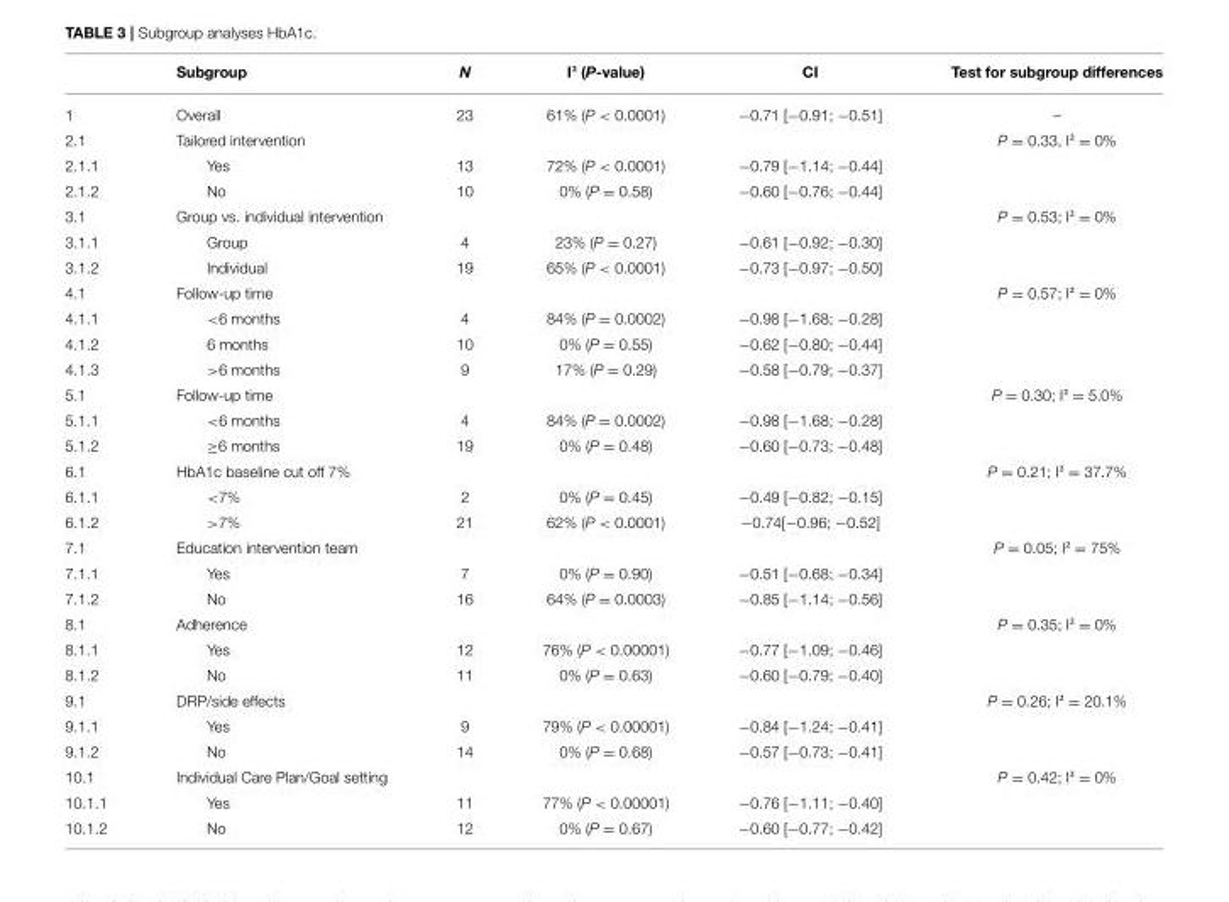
<table><thead><tr><td></td><td>Subgroup</td><td>N</td><td>I² (P-value)</td><td>CI</td><td>Test for subgroup differences</td></tr></thead><tbody><tr><td>1</td><td>Overall</td><td>23</td><td>61% (P &lt; 0.0001)</td><td>−0.71 [−0.91; −0.51]</td><td>–</td></tr><tr><td>2.1</td><td>Tailored intervention</td><td></td><td></td><td></td><td>P = 0.33, I² = 0%</td></tr><tr><td>2.1.1</td><td>Yes</td><td>13</td><td>72% (P &lt; 0.0001)</td><td>−0.79 [−1.14; −0.44]</td><td></td></tr><tr><td>2.1.2</td><td>No</td><td>10</td><td>0% (P = 0.58)</td><td>−0.60 [−0.76; −0.44]</td><td></td></tr><tr><td>3.1</td><td>Group vs. individual intervention</td><td></td><td></td><td></td><td>P = 0.53; I² = 0%</td></tr><tr><td>3.1.1</td><td>Group</td><td>4</td><td>23% (P = 0.27)</td><td>−0.61 [−0.92; −0.30]</td><td></td></tr><tr><td>3.1.2</td><td>Individual</td><td>19</td><td>65% (P &lt; 0.0001)</td><td>−0.73 [−0.97; −0.50]</td><td></td></tr><tr><td>4.1</td><td>Follow-up time</td><td></td><td></td><td></td><td>P = 0.57; I² = 0%</td></tr><tr><td>4.1.1</td><td>&lt;6 months</td><td>4</td><td>84% (P = 0.0002)</td><td>−0.98 [−1.68; −0.28]</td><td></td></tr><tr><td>4.1.2</td><td>6 months</td><td>10</td><td>0% (P = 0.55)</td><td>−0.62 [−0.80; −0.44]</td><td></td></tr><tr><td>4.1.3</td><td>&gt;6 months</td><td>9</td><td>17% (P = 0.29)</td><td>−0.58 [−0.79; −0.37]</td><td></td></tr><tr><td>5.1</td><td>Follow-up time</td><td></td><td></td><td></td><td>P = 0.30; I² = 5.0%</td></tr><tr><td>5.1.1</td><td>&lt;6 months</td><td>4</td><td>84% (P = 0.0002)</td><td>−0.98 [−1.68; −0.28]</td><td></td></tr><tr><td>5.1.2</td><td>≥6 months</td><td>19</td><td>0% (P = 0.48)</td><td>−0.60 [−0.73; −0.48]</td><td></td></tr><tr><td>6.1</td><td>HbA1c baseline cut off 7%</td><td></td><td></td><td></td><td>P = 0.21; I² = 37.7%</td></tr><tr><td>6.1.1</td><td>&lt;7%</td><td>2</td><td>0% (P = 0.45)</td><td>−0.49 [−0.82; −0.15]</td><td></td></tr><tr><td>6.1.2</td><td>&gt;7%</td><td>21</td><td>62% (P &lt; 0.0001)</td><td>−0.74[−0.96; −0.52]</td><td></td></tr><tr><td>7.1</td><td>Education intervention team</td><td></td><td></td><td></td><td>P = 0.05; I² = 75%</td></tr><tr><td>7.1.1</td><td>Yes</td><td>7</td><td>0% (P = 0.90)</td><td>−0.51 [−0.68; −0.34]</td><td></td></tr><tr><td>7.1.2</td><td>No</td><td>16</td><td>64% (P = 0.0003)</td><td>−0.85 [−1.14; −0.56]</td><td></td></tr><tr><td>8.1</td><td>Adherence</td><td></td><td></td><td></td><td>P = 0.35; I² = 0%</td></tr><tr><td>8.1.1</td><td>Yes</td><td>12</td><td>76% (P &lt; 0.00001)</td><td>−0.77 [−1.09; −0.46]</td><td></td></tr><tr><td>8.1.2</td><td>No</td><td>11</td><td>0% (P = 0.63)</td><td>−0.60 [−0.79; −0.40]</td><td></td></tr><tr><td>9.1</td><td>DRP/side effects</td><td></td><td></td><td></td><td>P = 0.26; I² = 20.1%</td></tr><tr><td>9.1.1</td><td>Yes</td><td>9</td><td>79% (P &lt; 0.00001)</td><td>−0.84 [−1.24; −0.41]</td><td></td></tr><tr><td>9.1.2</td><td>No</td><td>14</td><td>0% (P = 0.68)</td><td>−0.57 [−0.73; −0.41]</td><td></td></tr><tr><td>10.1</td><td>Individual Care Plan/Goal setting</td><td></td><td></td><td></td><td>P = 0.42; I² = 0%</td></tr><tr><td>10.1.1</td><td>Yes</td><td>11</td><td>77% (P &lt; 0.00001)</td><td>−0.76 [−1.11; −0.40]</td><td></td></tr><tr><td>10.1.2</td><td>No</td><td>12</td><td>0% (P = 0.67)</td><td>−0.60 [−0.77; −0.42]</td><td></td></tr></tbody></table>